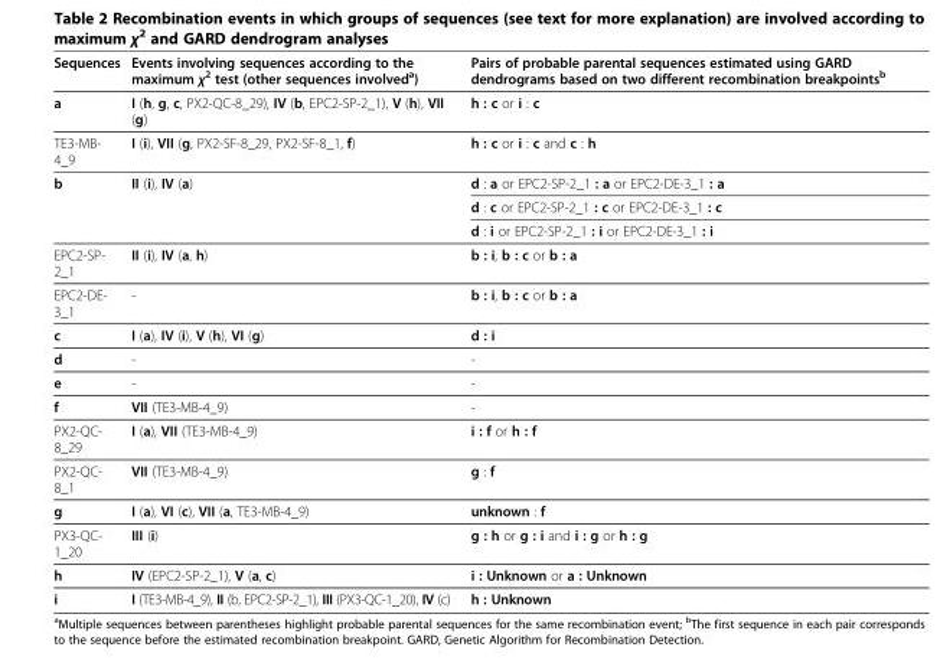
<table><thead><tr><td>Sequences</td><td>Events involving sequences according to the maximum χ<sup>2</sup> test (other sequences involved<sup>a</sup>)</td><td>Pairs of probable parental sequences estimated using GARD dendrograms based on two different recombination breakpoints<sup>b</sup></td></tr></thead><tbody><tr><td>a</td><td>I (h, g, c, PX2-QC-8_29), IV (b, EPC2-SP-2_1), V (h), VII (g)</td><td>h : c or i : c</td></tr><tr><td>TE3-MB- 4_9</td><td>I (i), VII (g, PX2-SF-8_29, PX2-SF-8_1, f)</td><td>h : c or i : c and c : h</td></tr><tr><td rowspan="3">b</td><td rowspan="3">II (i), IV (a)</td><td>d : a or EPC2-SP-2_1 : a or EPC2-DE-3_1 : a</td></tr><tr><td>d : c or EPC2-SP-2_1 : c or EPC2-DE-3_1 : c</td></tr><tr><td>d : i or EPC2-SP-2_1 : i or EPC2-DE-3_1 : i</td></tr><tr><td>EPC2-SP- 2_1</td><td>II (i), IV (a, h)</td><td>b : i, b : c or b : a</td></tr><tr><td>EPC2-DE- 3_1</td><td>-</td><td>b : i, b : c or b : a</td></tr><tr><td>c</td><td>I (a), IV (i), V (h), VI (g)</td><td>d : i</td></tr><tr><td>d</td><td>-</td><td>-</td></tr><tr><td>e</td><td>-</td><td>-</td></tr><tr><td>f</td><td>VII (TE3-MB-4_9)</td><td>-</td></tr><tr><td>PX2-QC- 8_29</td><td>I (a), VII (TE3-MB-4_9)</td><td>i : f or h : f</td></tr><tr><td>PX2-QC- 8_1</td><td>VII (TE3-MB-4_9)</td><td>g : f</td></tr><tr><td>g</td><td>I (a), VI (c), VII (a, TE3-MB-4_9)</td><td>unknown : f</td></tr><tr><td>PX3-QC- 1_20</td><td>III (i)</td><td>g : h or g : i and i : g or h : g</td></tr><tr><td>h</td><td>IV (EPC2-SP-2_1), V (a, c)</td><td>i : Unknown or a : Unknown</td></tr><tr><td>i</td><td>I (TE3-MB-4_9), II (b, EPC2-SP-2_1), III (PX3-QC-1_20), IV (c)</td><td>h : Unknown</td></tr></tbody></table>